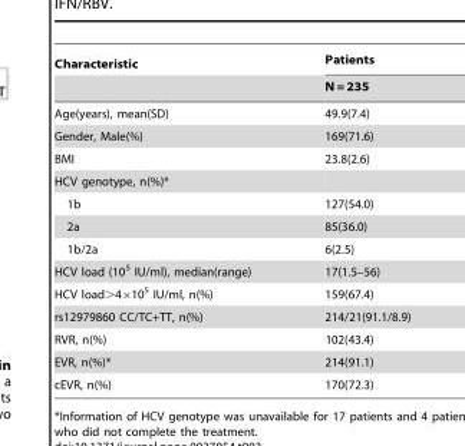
<table><thead><tr><td rowspan="2">Characteristic</td><td rowspan="2">Patients N = 235</td></tr><tr></tr></thead><tbody><tr><td>Age(years), mean(SD)</td><td>49.9(7.4)</td></tr><tr><td>Gender, Male(%)</td><td>169(71.6)</td></tr><tr><td>BMI</td><td>23.8(2.6)</td></tr><tr><td colspan="2">HCV genotype, n(%)*</td></tr><tr><td>1b</td><td>127(54.0)</td></tr><tr><td>2a</td><td>85(36.0)</td></tr><tr><td>1b/2a</td><td>6(2.5)</td></tr><tr><td>HCV load (10<sup>5</sup> IU/ml), median(range)</td><td>17(1.5–56)</td></tr><tr><td>HCV load&gt;4×10<sup>5</sup> IU/ml, n(%)</td><td>159(67.4)</td></tr><tr><td>rs12979860 CC/TC+TT, n(%)</td><td>214/21(91.1/8.9)</td></tr><tr><td>RVR, n(%)</td><td>102(43.4)</td></tr><tr><td>EVR, n(%)*</td><td>214(91.1)</td></tr><tr><td>cEVR, n(%)</td><td>170(72.3)</td></tr></tbody></table>